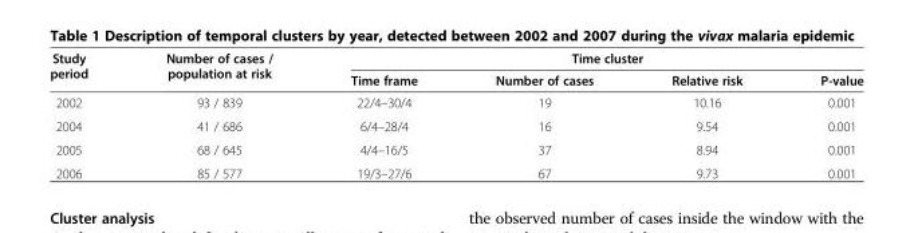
<table><thead><tr><td rowspan="2">Study period</td><td rowspan="2">Number of cases / population at risk</td><td colspan="4">Time cluster</td></tr><tr><td>Time frame</td><td>Number of cases</td><td>Relative risk</td><td>P-value</td></tr></thead><tbody><tr><td>2002</td><td>93 / 839</td><td>22/4–30/4</td><td>19</td><td>10.16</td><td>0.001</td></tr><tr><td>2004</td><td>41 / 686</td><td>6/4–28/4</td><td>16</td><td>9.54</td><td>0.001</td></tr><tr><td>2005</td><td>68 / 645</td><td>4/4–16/5</td><td>37</td><td>8.94</td><td>0.001</td></tr><tr><td>2006</td><td>85 / 577</td><td>19/3–27/6</td><td>67</td><td>9.73</td><td>0.001</td></tr></tbody></table>